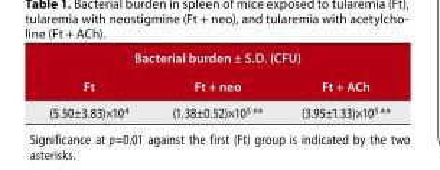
<table><thead><tr><td colspan="3">Bacterial burden ± S.D. (CFU)</td></tr><tr><td>Ft</td><td>Ft + neo</td><td>Ft + ACh</td></tr></thead><tbody><tr><td>(5.50±3.83)×10<sup>4</sup></td><td>(1.38±0.52)×10<sup>5 **</sup></td><td>(3.95±1.33)×10<sup>5 **</sup></td></tr></tbody></table>